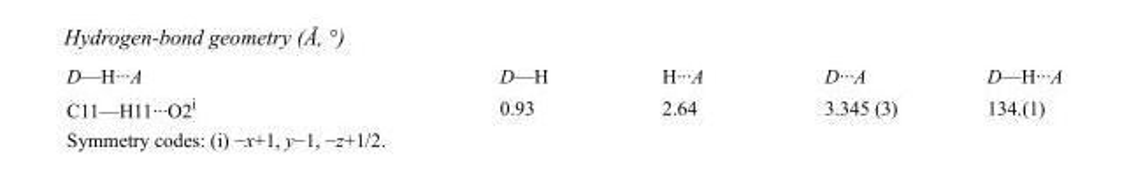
<table><tbody><tr><td>D—H···A</td><td>D—H</td><td>H···A</td><td>D···A</td><td>D—H···A</td></tr><tr><td>C11—H11···O2<sup>i</sup></td><td>0.93</td><td>2.64</td><td>3.345 (3)</td><td>134.(1)</td></tr></tbody></table>